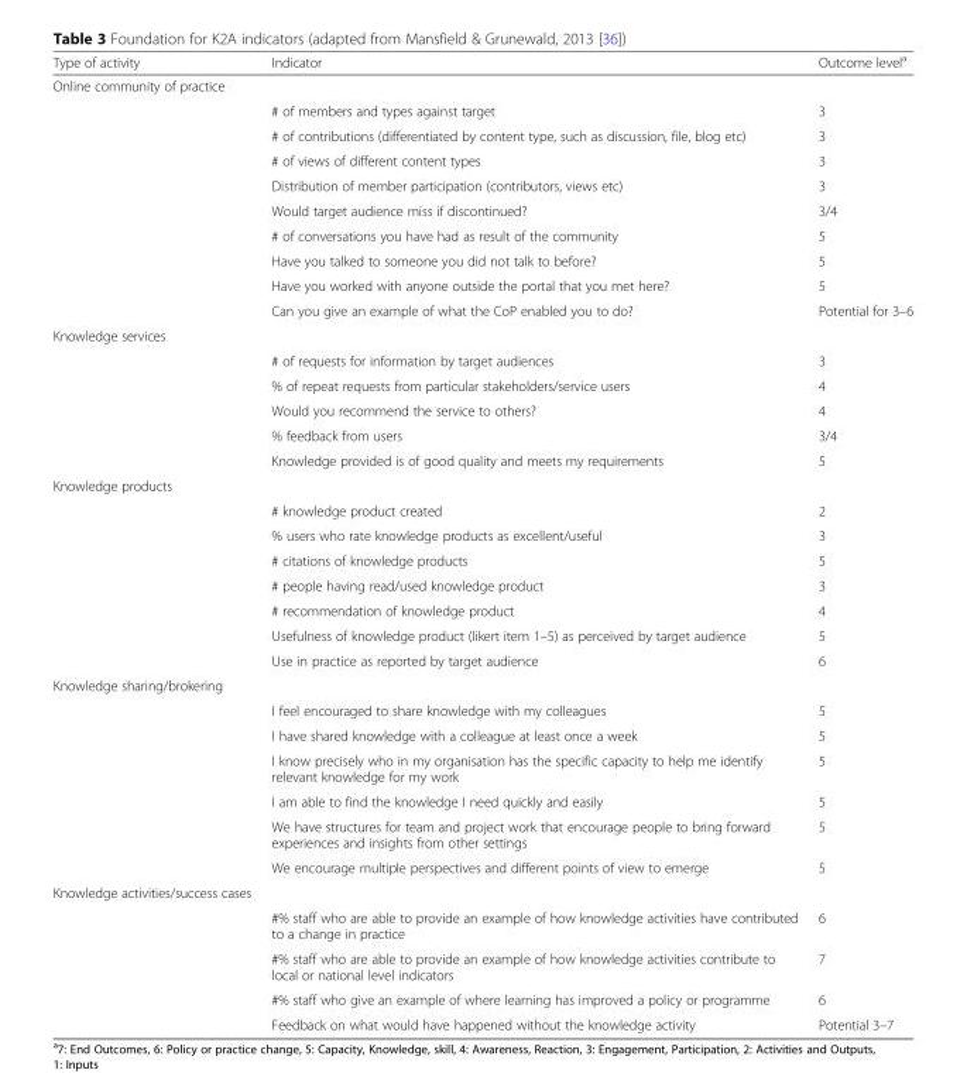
<table><thead><tr><td>Type of activity</td><td>Indicator</td><td>Outcome level<sup>a</sup></td></tr></thead><tbody><tr><td colspan="3">Online community of practice</td></tr><tr><td></td><td># of members and types against target</td><td>3</td></tr><tr><td></td><td># of contributions (differentiated by content type, such as discussion, file, blog etc)</td><td>3</td></tr><tr><td></td><td># of views of different content types</td><td>3</td></tr><tr><td></td><td>Distribution of member participation (contributors, views etc)</td><td>3</td></tr><tr><td></td><td>Would target audience miss if discontinued?</td><td>3/4</td></tr><tr><td></td><td># of conversations you have had as result of the community</td><td>5</td></tr><tr><td></td><td>Have you talked to someone you did not talk to before?</td><td>5</td></tr><tr><td></td><td>Have you worked with anyone outside the portal that you met here?</td><td>5</td></tr><tr><td></td><td>Can you give an example of what the CoP enabled you to do?</td><td>Potential for 3–6</td></tr><tr><td colspan="3">Knowledge services</td></tr><tr><td></td><td># of requests for information by target audiences</td><td>3</td></tr><tr><td></td><td>% of repeat requests from particular stakeholders/service users</td><td>4</td></tr><tr><td></td><td>Would you recommend the service to others?</td><td>4</td></tr><tr><td></td><td>% feedback from users</td><td>3/4</td></tr><tr><td></td><td>Knowledge provided is of good quality and meets my requirements</td><td>5</td></tr><tr><td colspan="3">Knowledge products</td></tr><tr><td></td><td># knowledge product created</td><td>2</td></tr><tr><td></td><td>% users who rate knowledge products as excellent/useful</td><td>3</td></tr><tr><td></td><td># citations of knowledge products</td><td>5</td></tr><tr><td></td><td># people having read/used knowledge product</td><td>3</td></tr><tr><td></td><td># recommendation of knowledge product</td><td>4</td></tr><tr><td></td><td>Usefulness of knowledge product (likert item 1–5) as perceived by target audience</td><td>5</td></tr><tr><td></td><td>Use in practice as reported by target audience</td><td>6</td></tr><tr><td colspan="3">Knowledge sharing/brokering</td></tr><tr><td></td><td>I feel encouraged to share knowledge with my colleagues</td><td>5</td></tr><tr><td></td><td>I have shared knowledge with a colleague at least once a week</td><td>5</td></tr><tr><td></td><td>I know precisely who in my organisation has the specific capacity to help me identify relevant knowledge for my work</td><td>5</td></tr><tr><td></td><td>I am able to find the knowledge I need quickly and easily</td><td>5</td></tr><tr><td></td><td>We have structures for team and project work that encourage people to bring forward experiences and insights from other settings</td><td>5</td></tr><tr><td></td><td>We encourage multiple perspectives and different points of view to emerge</td><td>5</td></tr><tr><td colspan="3">Knowledge activities/success cases</td></tr><tr><td></td><td>#% staff who are able to provide an example of how knowledge activities have contributed to a change in practice</td><td>6</td></tr><tr><td></td><td>#% staff who are able to provide an example of how knowledge activities contribute to local or national level indicators</td><td>7</td></tr><tr><td></td><td>#% staff who give an example of where learning has improved a policy or programme</td><td>6</td></tr><tr><td></td><td>Feedback on what would have happened without the knowledge activity</td><td>Potential 3–7</td></tr></tbody></table>